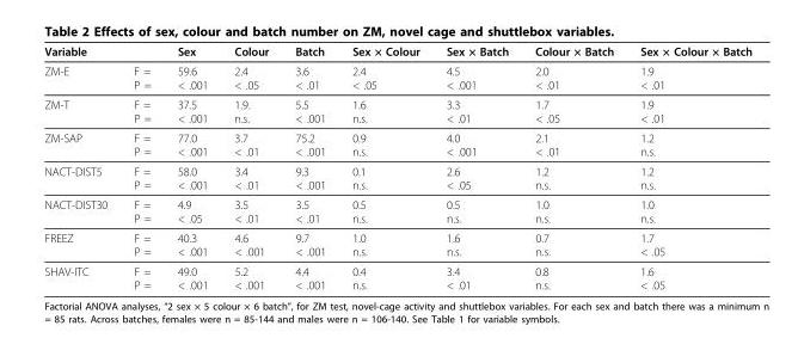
<table><thead><tr><td>Variable</td><td></td><td>Sex</td><td>Colour</td><td>Batch</td><td>Sex × Colour</td><td>Sex × Batch</td><td>Colour × Batch</td><td>Sex × Colour × Batch</td></tr></thead><tbody><tr><td>ZM-E</td><td>F = P =</td><td>59.6 &lt; .001</td><td>2.4 &lt; .05</td><td>3.6 &lt; .01</td><td>2.4 &lt; .05</td><td>4.5 &lt; .001</td><td>2.0 &lt; .01</td><td>1.9 &lt; .01</td></tr><tr><td>ZM-T</td><td>F = P =</td><td>37.5 &lt; .001</td><td>1.9. n.s.</td><td>5.5 &lt; .001</td><td>1.6 n.s.</td><td>3.3 &lt; .01</td><td>1.7 &lt; .05</td><td>1.9 &lt; .01</td></tr><tr><td>ZM-SAP</td><td>F = P =</td><td>77.0 &lt; .001</td><td>3.7 &lt; .01</td><td>75.2 &lt; .001</td><td>0.9 n.s.</td><td>4.0 &lt; .001</td><td>2.1 &lt; .01</td><td>1.2 n.s.</td></tr><tr><td>NACT-DIST5</td><td>F = P =</td><td>58.0 &lt; .001</td><td>3.4 &lt; .01</td><td>9.3 &lt; .001</td><td>0.1 n.s.</td><td>2.6 &lt; .05</td><td>1.2 n.s.</td><td>1.2 n.s.</td></tr><tr><td>NACT-DIST30</td><td>F = P =</td><td>4.9 &lt; .05</td><td>3.5 &lt; .01</td><td>3.5 &lt; .01</td><td>0.5 n.s.</td><td>0.5 n.s.</td><td>1.0 n.s.</td><td>1.0 n.s.</td></tr><tr><td>FREEZ</td><td>F = P =</td><td>40.3 &lt; .001</td><td>4.6 &lt; .001</td><td>9.7 &lt; .001</td><td>1.0 n.s.</td><td>1.6 n.s.</td><td>0.7 n.s.</td><td>1.7 &lt; .05</td></tr><tr><td>SHAV-ITC</td><td>F = P =</td><td>49.0 &lt; .001</td><td>5.2 &lt; .001</td><td>4.4 &lt; .001</td><td>0.4 n.s.</td><td>3.4 &lt; .01</td><td>0.8 n.s.</td><td>1.6 &lt; .05</td></tr></tbody></table>